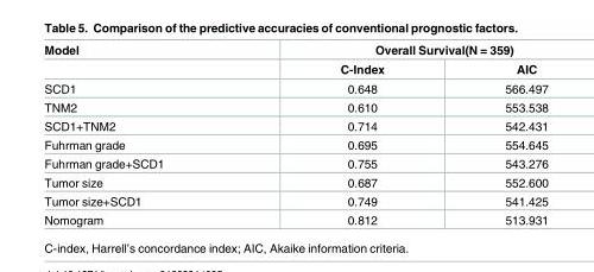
<table><thead><tr><td rowspan="2">Model</td><td colspan="2">Overall Survival(N = 359)</td></tr><tr><td>C-Index</td><td>AIC</td></tr></thead><tbody><tr><td>SCD1</td><td>0.648</td><td>566.497</td></tr><tr><td>TNM2</td><td>0.610</td><td>553.538</td></tr><tr><td>SCD1+TNM2</td><td>0.714</td><td>542.431</td></tr><tr><td>Fuhrman grade</td><td>0.695</td><td>554.645</td></tr><tr><td>Fuhrman grade+SCD1</td><td>0.755</td><td>543.276</td></tr><tr><td>Tumor size</td><td>0.687</td><td>552.600</td></tr><tr><td>Tumor size+SCD1</td><td>0.749</td><td>541.425</td></tr><tr><td>Nomogram</td><td>0.812</td><td>513.931</td></tr></tbody></table>